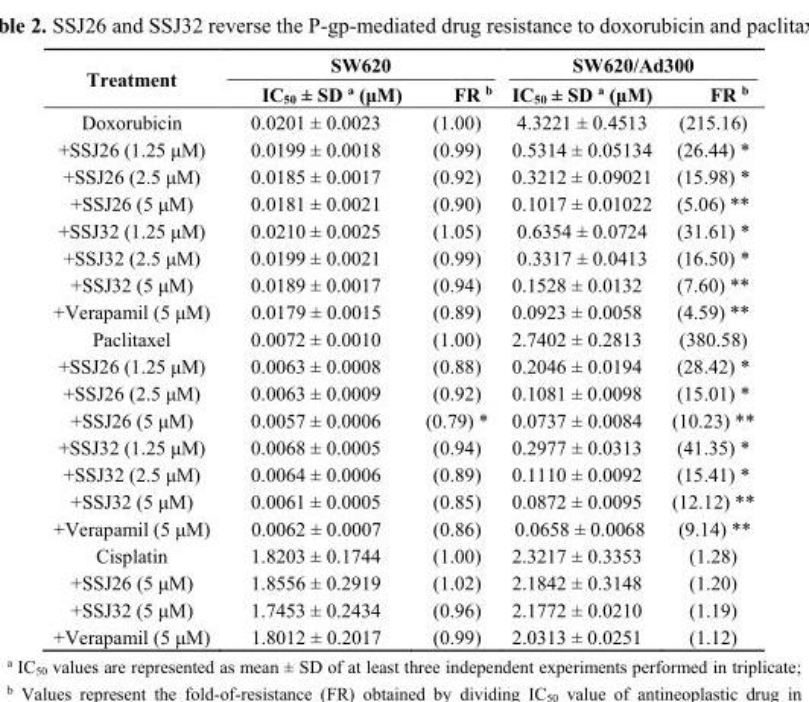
<table><thead><tr><td rowspan="2">Treatment</td><td colspan="2">SW620</td><td colspan="2">SW620/Ad300</td></tr><tr><td>IC<sub>50</sub> ± SD <sup>a</sup> (μM)</td><td>FR <sup>b</sup></td><td>IC<sub>50</sub> ± SD <sup>a</sup> (μM)</td><td>FR <sup>b</sup></td></tr></thead><tbody><tr><td>Doxorubicin</td><td>0.0201 ± 0.0023</td><td>(1.00)</td><td>4.3221 ± 0.4513</td><td>(215.16)</td></tr><tr><td>+SSJ26 (1.25 μM)</td><td>0.0199 ± 0.0018</td><td>(0.99)</td><td>0.5314 ± 0.05134</td><td>(26.44) *</td></tr><tr><td>+SSJ26 (2.5 μM)</td><td>0.0185 ± 0.0017</td><td>(0.92)</td><td>0.3212 ± 0.09021</td><td>(15.98) *</td></tr><tr><td>+SSJ26 (5 μM)</td><td>0.0181 ± 0.0021</td><td>(0.90)</td><td>0.1017 ± 0.01022</td><td>(5.06) **</td></tr><tr><td>+SSJ32 (1.25 μM)</td><td>0.0210 ± 0.0025</td><td>(1.05)</td><td>0.6354 ± 0.0724</td><td>(31.61) *</td></tr><tr><td>+SSJ32 (2.5 μM)</td><td>0.0199 ± 0.0021</td><td>(0.99)</td><td>0.3317 ± 0.0413</td><td>(16.50) *</td></tr><tr><td>+SSJ32 (5 μM)</td><td>0.0189 ± 0.0017</td><td>(0.94)</td><td>0.1528 ± 0.0132</td><td>(7.60) **</td></tr><tr><td>+Verapamil (5 μM)</td><td>0.0179 ± 0.0015</td><td>(0.89)</td><td>0.0923 ± 0.0058</td><td>(4.59) **</td></tr><tr><td>Paclitaxel</td><td>0.0072 ± 0.0010</td><td>(1.00)</td><td>2.7402 ± 0.2813</td><td>(380.58)</td></tr><tr><td>+SSJ26 (1.25 μM)</td><td>0.0063 ± 0.0008</td><td>(0.88)</td><td>0.2046 ± 0.0194</td><td>(28.42) *</td></tr><tr><td>+SSJ26 (2.5 μM)</td><td>0.0063 ± 0.0009</td><td>(0.92)</td><td>0.1081 ± 0.0098</td><td>(15.01) *</td></tr><tr><td>+SSJ26 (5 μM)</td><td>0.0057 ± 0.0006</td><td>(0.79) *</td><td>0.0737 ± 0.0084</td><td>(10.23) **</td></tr><tr><td>+SSJ32 (1.25 μM)</td><td>0.0068 ± 0.0005</td><td>(0.94)</td><td>0.2977 ± 0.0313</td><td>(41.35) *</td></tr><tr><td>+SSJ32 (2.5 μM)</td><td>0.0064 ± 0.0006</td><td>(0.89)</td><td>0.1110 ± 0.0092</td><td>(15.41) *</td></tr><tr><td>+SSJ32 (5 μM)</td><td>0.0061 ± 0.0005</td><td>(0.85)</td><td>0.0872 ± 0.0095</td><td>(12.12) **</td></tr><tr><td>+Verapamil (5 μM)</td><td>0.0062 ± 0.0007</td><td>(0.86)</td><td>0.0658 ± 0.0068</td><td>(9.14) **</td></tr><tr><td>Cisplatin</td><td>1.8203 ± 0.1744</td><td>(1.00)</td><td>2.3217 ± 0.3353</td><td>(1.28)</td></tr><tr><td>+SSJ26 (5 μM)</td><td>1.8556 ± 0.2919</td><td>(1.02)</td><td>2.1842 ± 0.3148</td><td>(1.20)</td></tr><tr><td>+SSJ32 (5 μM)</td><td>1.7453 ± 0.2434</td><td>(0.96)</td><td>2.1772 ± 0.0210</td><td>(1.19)</td></tr><tr><td>+Verapamil (5 μM)</td><td>1.8012 ± 0.2017</td><td>(0.99)</td><td>2.0313 ± 0.0251</td><td>(1.12)</td></tr></tbody></table>